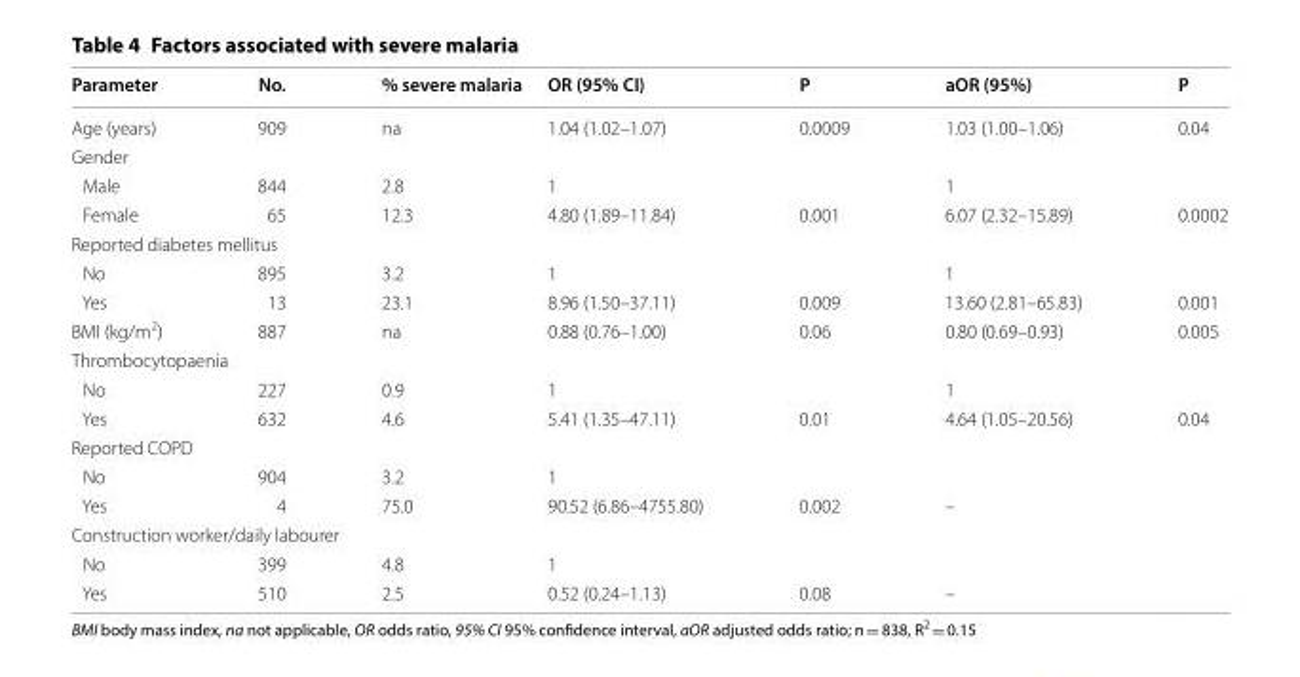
<table><thead><tr><td>Parameter</td><td>No.</td><td>% severe malaria</td><td>OR (95% CI)</td><td>P</td><td>aOR (95%)</td><td>P</td></tr></thead><tbody><tr><td>Age (years)</td><td>909</td><td>na</td><td>1.04 (1.02–1.07)</td><td>0.0009</td><td>1.03 (1.00–1.06)</td><td>0.04</td></tr><tr><td colspan="7">Gender</td></tr><tr><td>Male</td><td>844</td><td>2.8</td><td>1</td><td></td><td>1</td><td></td></tr><tr><td>Female</td><td>65</td><td>12.3</td><td>4.80 (1.89–11.84)</td><td>0.001</td><td>6.07 (2.32–15.89)</td><td>0.0002</td></tr><tr><td colspan="7">Reported diabetes mellitus</td></tr><tr><td>No</td><td>895</td><td>3.2</td><td>1</td><td></td><td>1</td><td></td></tr><tr><td>Yes</td><td>13</td><td>23.1</td><td>8.96 (1.50–37.11)</td><td>0.009</td><td>13.60 (2.81–65.83)</td><td>0.001</td></tr><tr><td>BMI (kg/m<sup>2</sup>)</td><td>887</td><td>na</td><td>0.88 (0.76–1.00)</td><td>0.06</td><td>0.80 (0.69–0.93)</td><td>0.005</td></tr><tr><td colspan="7">Thrombocytopaenia</td></tr><tr><td>No</td><td>227</td><td>0.9</td><td>1</td><td></td><td>1</td><td></td></tr><tr><td>Yes</td><td>632</td><td>4.6</td><td>5.41 (1.35–47.11)</td><td>0.01</td><td>4.64 (1.05–20.56)</td><td>0.04</td></tr><tr><td colspan="7">Reported COPD</td></tr><tr><td>No</td><td>904</td><td>3.2</td><td>1</td><td></td><td></td><td></td></tr><tr><td>Yes</td><td>4</td><td>75.0</td><td>90.52 (6.86–4755.80)</td><td>0.002</td><td>–</td><td></td></tr><tr><td colspan="7">Construction worker/daily labourer</td></tr><tr><td>No</td><td>399</td><td>4.8</td><td>1</td><td></td><td></td><td></td></tr><tr><td>Yes</td><td>510</td><td>2.5</td><td>0.52 (0.24–1.13)</td><td>0.08</td><td>–</td><td></td></tr></tbody></table>